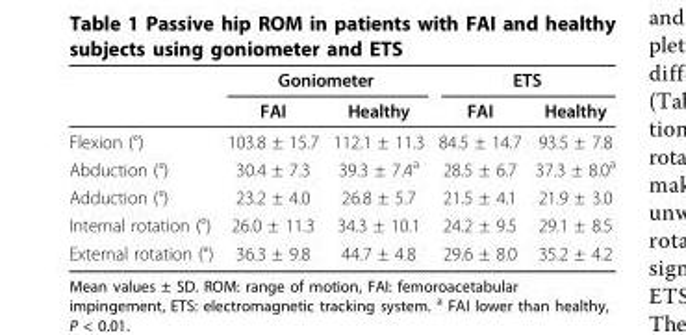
<table><thead><tr><td rowspan="2"></td><td colspan="2">Goniometer</td><td colspan="2">ETS</td></tr><tr><td>FAI</td><td>Healthy</td><td>FAI</td><td>Healthy</td></tr></thead><tbody><tr><td>Flexion (°)</td><td>103.8 ± 15.7</td><td>112.1 ± 11.3</td><td>84.5 ± 14.7</td><td>93.5 ± 7.8</td></tr><tr><td>Abduction (°)</td><td>30.4 ± 7.3</td><td>39.3 ± 7.4<sup>a</sup></td><td>28.5 ± 6.7</td><td>37.3 ± 8.0<sup>a</sup></td></tr><tr><td>Adduction (°)</td><td>23.2 ± 4.0</td><td>26.8 ± 5.7</td><td>21.5 ± 4.1</td><td>21.9 ± 3.0</td></tr><tr><td>Internal rotation (°)</td><td>26.0 ± 11.3</td><td>34.3 ± 10.1</td><td>24.2 ± 9.5</td><td>29.1 ± 8.5</td></tr><tr><td>External rotation (°)</td><td>36.3 ± 9.8</td><td>44.7 ± 4.8</td><td>29.6 ± 8.0</td><td>35.2 ± 4.2</td></tr></tbody></table>